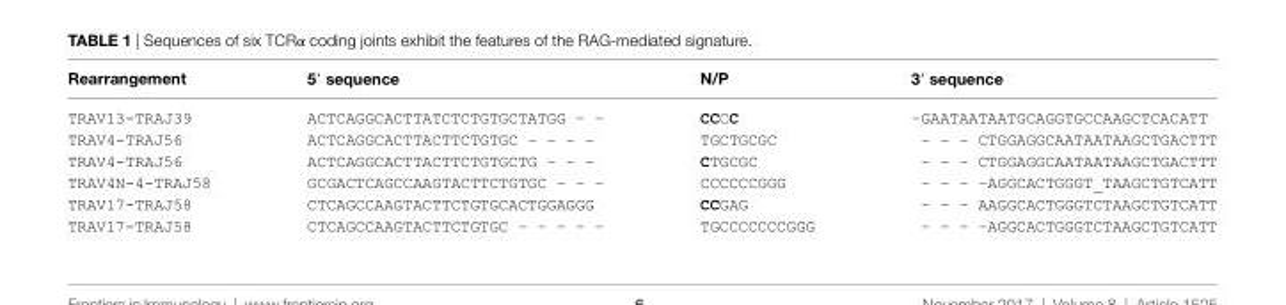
<table><thead><tr><td>rearrangement</td><td>5′ sequence</td><td>n/P</td><td>3′ sequence</td></tr></thead><tbody><tr><td>TRAV13-TRAJ39</td><td>ACTCAGGCACTTATCTCTGTGCTATGG – –</td><td>CCCC</td><td>–GAATAATAATGCAGGTGCCAAGCTCACATT</td></tr><tr><td>TRAV4-TRAJ56</td><td>ACTCAGGCACTTACTTCTGTGC – – – –</td><td>TGCTGCGC</td><td>– – – CTGGAGGCAATAATAAGCTGACTTT</td></tr><tr><td>TRAV4-TRAJ56</td><td>ACTCAGGCACTTACTTCTGTGCTG – – –</td><td>CTGCGC</td><td>– – – CTGGAGGCAATAATAAGCTGACTTT</td></tr><tr><td>TRAV4N-4-TRAJ58</td><td>GCGACTCAGCCAAGTACTTCTGTGC – – –</td><td>CCCCCCGGG</td><td>– – – –AGGCACTGGGT_TAAGCTGTCATT</td></tr><tr><td>TRAV17-TRAJ58</td><td>CTCAGCCAAGTACTTCTGTGCACTGGAGGG</td><td>CCGAG</td><td>– – – AAGGCACTGGGTCTAAGCTGTCATT</td></tr><tr><td>TRAV17-TRAJ58</td><td>CTCAGCCAAGTACTTCTGTGC – – – – –</td><td>TGCCCCCCCGGG</td><td>– – – –AGGCACTGGGTCTAAGCTGTCATT</td></tr></tbody></table>